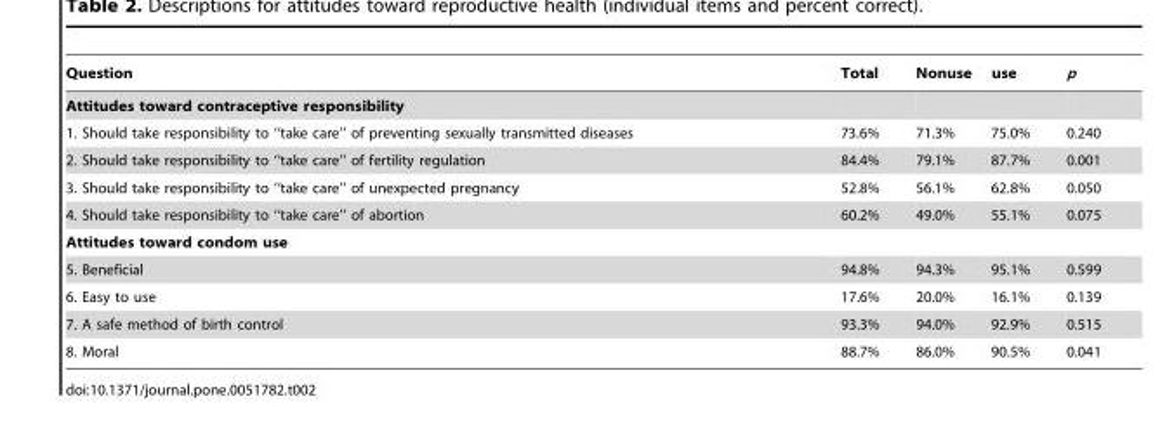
<table><thead><tr><td>Question</td><td>Total</td><td>Nonuse</td><td>use</td><td>p</td></tr></thead><tbody><tr><td colspan="5">Attitudes toward contraceptive responsibility</td></tr><tr><td>1. Should take responsibility to ‘‘take care’’ of preventing sexually transmitted diseases</td><td>73.6%</td><td>71.3%</td><td>75.0%</td><td>0.240</td></tr><tr><td>2. Should take responsibility to ‘‘take care’’ of fertility regulation</td><td>84.4%</td><td>79.1%</td><td>87.7%</td><td>0.001</td></tr><tr><td>3. Should take responsibility to ‘‘take care’’ of unexpected pregnancy</td><td>52.8%</td><td>56.1%</td><td>62.8%</td><td>0.050</td></tr><tr><td>4. Should take responsibility to ‘‘take care’’ of abortion</td><td>60.2%</td><td>49.0%</td><td>55.1%</td><td>0.075</td></tr><tr><td colspan="5">Attitudes toward condom use</td></tr><tr><td>5. Beneficial</td><td>94.8%</td><td>94.3%</td><td>95.1%</td><td>0.599</td></tr><tr><td>6. Easy to use</td><td>17.6%</td><td>20.0%</td><td>16.1%</td><td>0.139</td></tr><tr><td>7. A safe method of birth control</td><td>93.3%</td><td>94.0%</td><td>92.9%</td><td>0.515</td></tr><tr><td>8. Moral</td><td>88.7%</td><td>86.0%</td><td>90.5%</td><td>0.041</td></tr></tbody></table>